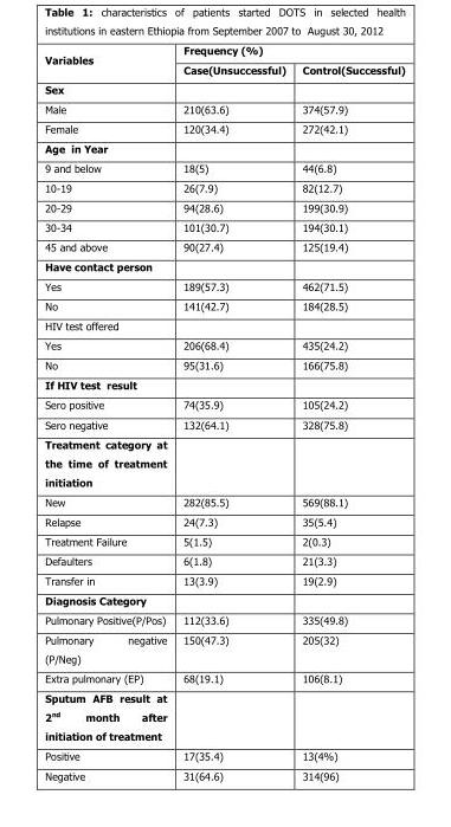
<table><thead><tr><td rowspan="2">Variables</td><td colspan="2">Frequency (%)</td></tr><tr><td>Case(Unsuccessful)</td><td>Control(Successful)</td></tr></thead><tbody><tr><td colspan="3">Sex</td></tr><tr><td>Male</td><td>210(63.6)</td><td>374(57.9)</td></tr><tr><td>Female</td><td>120(34.4)</td><td>272(42.1)</td></tr><tr><td colspan="3">Age in Year</td></tr><tr><td>9 and below</td><td>18(5)</td><td>44(6.8)</td></tr><tr><td>10-19</td><td>26(7.9)</td><td>82(12.7)</td></tr><tr><td>20-29</td><td>94(28.6)</td><td>199(30.9)</td></tr><tr><td>30-34</td><td>101(30.7)</td><td>194(30.1)</td></tr><tr><td>45 and above</td><td>90(27.4)</td><td>125(19.4)</td></tr><tr><td colspan="3">Have contact person</td></tr><tr><td>Yes</td><td>189(57.3)</td><td>462(71.5)</td></tr><tr><td>No</td><td>141(42.7)</td><td>184(28.5)</td></tr><tr><td colspan="3">HIV test offered</td></tr><tr><td>Yes</td><td>206(68.4)</td><td>435(24.2)</td></tr><tr><td>No</td><td>95(31.6)</td><td>166(75.8)</td></tr><tr><td colspan="3">If HIV test result</td></tr><tr><td>Sero positive</td><td>74(35.9)</td><td>105(24.2)</td></tr><tr><td>Sero negative</td><td>132(64.1)</td><td>328(75.8)</td></tr><tr><td colspan="3">Treatment category at the time of treatment initiation</td></tr><tr><td>New</td><td>282(85.5)</td><td>569(88.1)</td></tr><tr><td>Relapse</td><td>24(7.3)</td><td>35(5.4)</td></tr><tr><td>Treatment Failure</td><td>5(1.5)</td><td>2(0.3)</td></tr><tr><td>Defaulters</td><td>6(1.8)</td><td>21(3.3)</td></tr><tr><td>Transfer in</td><td>13(3.9)</td><td>19(2.9)</td></tr><tr><td colspan="3">Diagnosis Category</td></tr><tr><td>Pulmonary Positive(P/Pos)</td><td>112(33.6)</td><td>335(49.8)</td></tr><tr><td>Pulmonary negative (P/Neg)</td><td>150(47.3)</td><td>205(32)</td></tr><tr><td>Extra pulmonary (EP)</td><td>68(19.1)</td><td>106(8.1)</td></tr><tr><td colspan="3">Sputum AFB result at 2<sup>nd</sup> month after initiation of treatment</td></tr><tr><td>Positive</td><td>17(35.4)</td><td>13(4%)</td></tr><tr><td>Negative</td><td>31(64.6)</td><td>314(96)</td></tr></tbody></table>